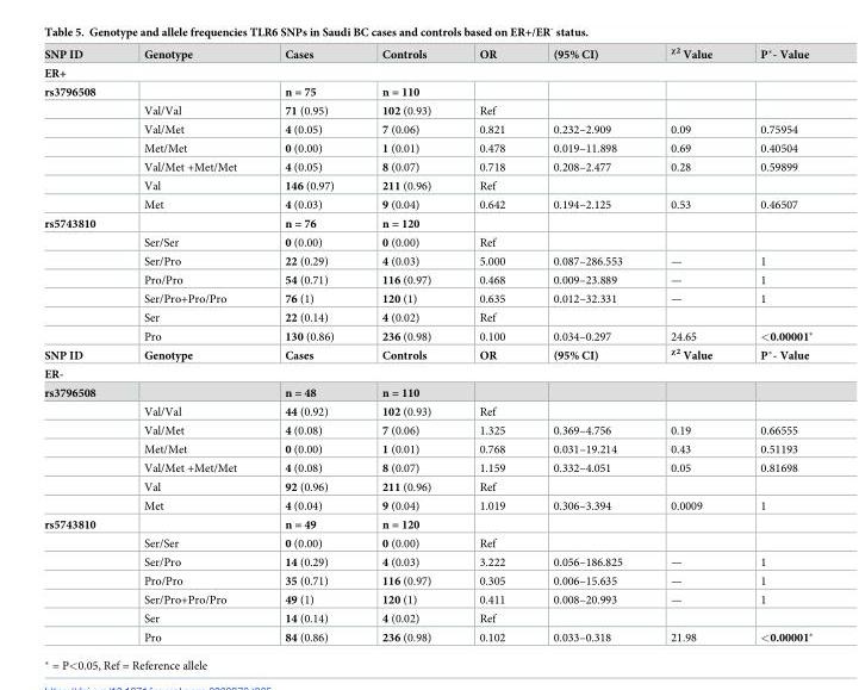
<table><tbody><tr><td>SNP ID</td><td>Genotype</td><td>Cases</td><td>Controls</td><td>OR</td><td>(95% CI)</td><td><sup>χ2</sup> Value</td><td>P*- Value</td></tr><tr><td colspan="8">ER+</td></tr><tr><td rowspan="7">rs3796508</td><td></td><td>n = 75</td><td>n = 110</td><td></td><td></td><td></td><td></td></tr><tr><td>Val/Val</td><td>71 (0.95)</td><td>102 (0.93)</td><td>Ref</td><td></td><td></td><td></td></tr><tr><td>Val/Met</td><td>4 (0.05)</td><td>7 (0.06)</td><td>0.821</td><td>0.232–2.909</td><td>0.09</td><td>0.75954</td></tr><tr><td>Met/Met</td><td>0 (0.00)</td><td>1 (0.01)</td><td>0.478</td><td>0.019–11.898</td><td>0.69</td><td>0.40504</td></tr><tr><td>Val/Met +Met/Met</td><td>4 (0.05)</td><td>8 (0.07)</td><td>0.718</td><td>0.208–2.477</td><td>0.28</td><td>0.59899</td></tr><tr><td>Val</td><td>146 (0.97)</td><td>211 (0.96)</td><td>Ref</td><td></td><td></td><td></td></tr><tr><td>Met</td><td>4 (0.03)</td><td>9 (0.04)</td><td>0.642</td><td>0.194–2.125</td><td>0.53</td><td>0.46507</td></tr><tr><td rowspan="7">rs5743810</td><td></td><td>n = 76</td><td>n = 120</td><td></td><td></td><td></td><td></td></tr><tr><td>Ser/Ser</td><td>0 (0.00)</td><td>0 (0.00)</td><td>Ref</td><td></td><td></td><td></td></tr><tr><td>Ser/Pro</td><td>22 (0.29)</td><td>4 (0.03)</td><td>5.000</td><td>0.087–286.553</td><td>—</td><td>1</td></tr><tr><td>Pro/Pro</td><td>54 (0.71)</td><td>116 (0.97)</td><td>0.468</td><td>0.009–23.889</td><td>—</td><td>1</td></tr><tr><td>Ser/Pro+Pro/Pro</td><td>76 (1)</td><td>120 (1)</td><td>0.635</td><td>0.012–32.331</td><td>—</td><td>1</td></tr><tr><td>Ser</td><td>22 (0.14)</td><td>4 (0.02)</td><td>Ref</td><td></td><td></td><td></td></tr><tr><td>Pro</td><td>130 (0.86)</td><td>236 (0.98)</td><td>0.100</td><td>0.034–0.297</td><td>24.65</td><td>&lt;0.00001*</td></tr><tr><td>SNP ID</td><td>Genotype</td><td>Cases</td><td>Controls</td><td>OR</td><td>(95% CI)</td><td><sup>χ2</sup> Value</td><td>P*- Value</td></tr><tr><td colspan="8">ER-</td></tr><tr><td rowspan="7">rs3796508</td><td></td><td>n = 48</td><td>n = 110</td><td></td><td></td><td></td><td></td></tr><tr><td>Val/Val</td><td>44 (0.92)</td><td>102 (0.93)</td><td>Ref</td><td></td><td></td><td></td></tr><tr><td>Val/Met</td><td>4 (0.08)</td><td>7 (0.06)</td><td>1.325</td><td>0.369–4.756</td><td>0.19</td><td>0.66555</td></tr><tr><td>Met/Met</td><td>0 (0.00)</td><td>1 (0.01)</td><td>0.768</td><td>0.031–19.214</td><td>0.43</td><td>0.51193</td></tr><tr><td>Val/Met +Met/Met</td><td>4 (0.08)</td><td>8 (0.07)</td><td>1.159</td><td>0.332–4.051</td><td>0.05</td><td>0.81698</td></tr><tr><td>Val</td><td>92 (0.96)</td><td>211 (0.96)</td><td>Ref</td><td></td><td></td><td></td></tr><tr><td>Met</td><td>4 (0.04)</td><td>9 (0.04)</td><td>1.019</td><td>0.306–3.394</td><td>0.0009</td><td>1</td></tr><tr><td rowspan="7">rs5743810</td><td></td><td>n = 49</td><td>n = 120</td><td></td><td></td><td></td><td></td></tr><tr><td>Ser/Ser</td><td>0 (0.00)</td><td>0 (0.00)</td><td>Ref</td><td></td><td></td><td></td></tr><tr><td>Ser/Pro</td><td>14 (0.29)</td><td>4 (0.03)</td><td>3.222</td><td>0.056–186.825</td><td>—</td><td>1</td></tr><tr><td>Pro/Pro</td><td>35 (0.71)</td><td>116 (0.97)</td><td>0.305</td><td>0.006–15.635</td><td>—</td><td>1</td></tr><tr><td>Ser/Pro+Pro/Pro</td><td>49 (1)</td><td>120 (1)</td><td>0.411</td><td>0.008–20.993</td><td>—</td><td>1</td></tr><tr><td>Ser</td><td>14 (0.14)</td><td>4 (0.02)</td><td>Ref</td><td></td><td></td><td></td></tr><tr><td>Pro</td><td>84 (0.86)</td><td>236 (0.98)</td><td>0.102</td><td>0.033–0.318</td><td>21.98</td><td>&lt;0.00001*</td></tr></tbody></table>